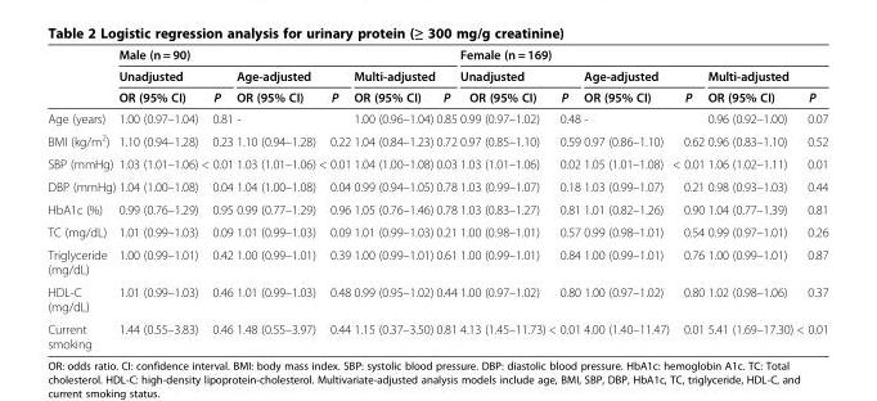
<table><thead><tr><td rowspan="3"></td><td colspan="6">Male (n = 90)</td><td colspan="6">Female (n = 169)</td></tr><tr><td colspan="2">Unadjusted</td><td colspan="2">Age-adjusted</td><td colspan="2">Multi-adjusted</td><td colspan="2">Unadjusted</td><td colspan="2">Age-adjusted</td><td colspan="2">Multi-adjusted</td></tr><tr><td>OR (95% CI)</td><td>P</td><td>OR (95% CI)</td><td>P</td><td>OR (95% CI)</td><td>P</td><td>OR (95% CI)</td><td>P</td><td>OR (95% CI)</td><td>P</td><td>OR (95% CI)</td><td>P</td></tr></thead><tbody><tr><td>Age (years)</td><td>1.00 (0.97–1.04)</td><td>0.81</td><td>-</td><td></td><td>1.00 (0.96–1.04)</td><td>0.85</td><td>0.99 (0.97–1.02)</td><td>0.48</td><td>-</td><td></td><td>0.96 (0.92–1.00)</td><td>0.07</td></tr><tr><td>BMI (kg/m<sup>2</sup>)</td><td>1.10 (0.94–1.28)</td><td>0.23</td><td>1.10 (0.94–1.28)</td><td>0.22</td><td>1.04 (0.84–1.23)</td><td>0.72</td><td>0.97 (0.85–1.10)</td><td>0.59</td><td>0.97 (0.86–1.10)</td><td>0.62</td><td>0.96 (0.83–1.10)</td><td>0.52</td></tr><tr><td>SBP (mmHg)</td><td>1.03 (1.01–1.06)</td><td>&lt; 0.01</td><td>1.03 (1.01–1.06)</td><td>&lt; 0.01</td><td>1.04 (1.00–1.08)</td><td>0.03</td><td>1.03 (1.01–1.06)</td><td>0.02</td><td>1.05 (1.01–1.08)</td><td>&lt; 0.01</td><td>1.06 (1.02–1.11)</td><td>0.01</td></tr><tr><td>DBP (mmHg)</td><td>1.04 (1.00–1.08)</td><td>0.04</td><td>1.04 (1.00–1.08)</td><td>0.04</td><td>0.99 (0.94–1.05)</td><td>0.78</td><td>1.03 (0.99–1.07)</td><td>0.18</td><td>1.03 (0.99–1.07)</td><td>0.21</td><td>0.98 (0.93–1.03)</td><td>0.44</td></tr><tr><td>HbA1c (%)</td><td>0.99 (0.76–1.29)</td><td>0.95</td><td>0.99 (0.77–1.29)</td><td>0.96</td><td>1.05 (0.76–1.46)</td><td>0.78</td><td>1.03 (0.83–1.27)</td><td>0.81</td><td>1.01 (0.82–1.26)</td><td>0.90</td><td>1.04 (0.77–1.39)</td><td>0.81</td></tr><tr><td>TC (mg/dL)</td><td>1.01 (0.99–1.03)</td><td>0.09</td><td>1.01 (0.99–1.03)</td><td>0.09</td><td>1.01 (0.99–1.03)</td><td>0.21</td><td>1.00 (0.98–1.01)</td><td>0.57</td><td>0.99 (0.98–1.01)</td><td>0.54</td><td>0.99 (0.97–1.01)</td><td>0.26</td></tr><tr><td>Triglyceride (mg/dL)</td><td>1.00 (0.99–1.01)</td><td>0.42</td><td>1.00 (0.99–1.01)</td><td>0.39</td><td>1.00 (0.99–1.01)</td><td>0.61</td><td>1.00 (0.99–1.01)</td><td>0.84</td><td>1.00 (0.99–1.01)</td><td>0.76</td><td>1.00 (0.99–1.01)</td><td>0.87</td></tr><tr><td>HDL-C (mg/dL)</td><td>1.01 (0.99–1.03)</td><td>0.46</td><td>1.01 (0.99–1.03)</td><td>0.48</td><td>0.99 (0.95–1.02)</td><td>0.44</td><td>1.00 (0.97–1.02)</td><td>0.80</td><td>1.00 (0.97–1.02)</td><td>0.80</td><td>1.02 (0.98–1.06)</td><td>0.37</td></tr><tr><td>Current smoking</td><td>1.44 (0.55–3.83)</td><td>0.46</td><td>1.48 (0.55–3.97)</td><td>0.44</td><td>1.15 (0.37–3.50)</td><td>0.81</td><td>4.13 (1.45–11.73)</td><td>&lt; 0.01</td><td>4.00 (1.40–11.47)</td><td>0.01</td><td>5.41 (1.69–17.30)</td><td>&lt; 0.01</td></tr></tbody></table>